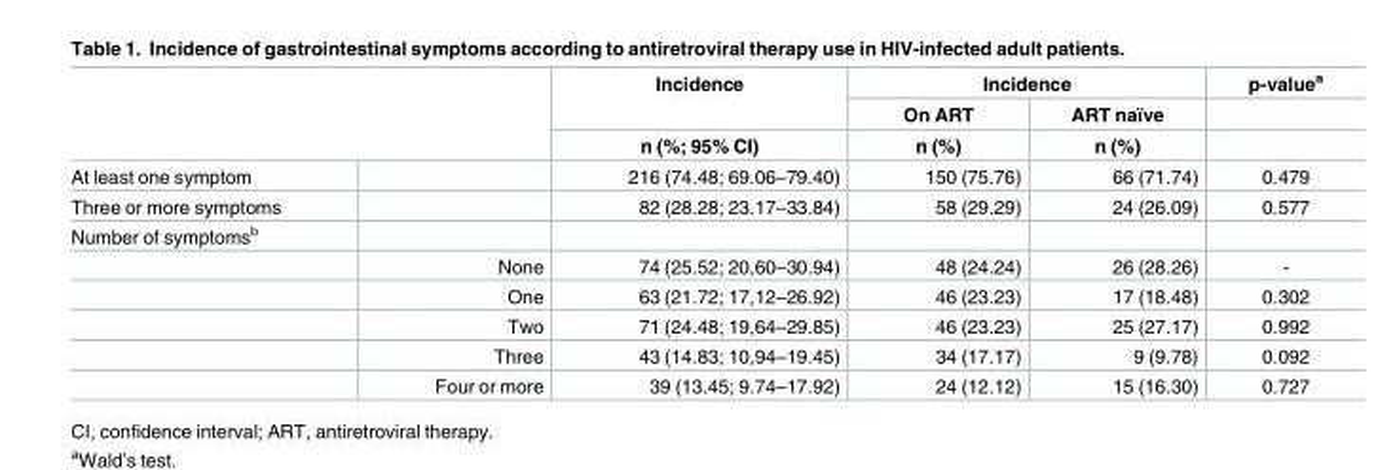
<table><thead><tr><td rowspan="3"></td><td rowspan="3"></td><td rowspan="3">Incidence n (%; 95% CI)</td><td colspan="2">Incidence</td><td rowspan="3">p-value<sup>a</sup></td></tr><tr><td rowspan="2">On ART n (%)</td><td rowspan="2">ART naïve n (%)</td></tr><tr></tr></thead><tbody><tr><td>At least one symptom</td><td></td><td>216 (74.48; 69.06–79.40)</td><td>150 (75.76)</td><td>66 (71.74)</td><td>0.479</td></tr><tr><td>Three or more symptoms</td><td></td><td>82 (28.28; 23.17–33.84)</td><td>58 (29.29)</td><td>24 (26.09)</td><td>0.577</td></tr><tr><td colspan="6">Number of symptoms<sup>b</sup></td></tr><tr><td></td><td>None</td><td>74 (25.52; 20,60–30.94)</td><td>48 (24.24)</td><td>26 (28.26)</td><td>-</td></tr><tr><td></td><td>One</td><td>63 (21.72; 17,12–26.92)</td><td>46 (23.23)</td><td>17 (18.48)</td><td>0.302</td></tr><tr><td></td><td>Two</td><td>71 (24.48; 19,64–29.85)</td><td>46 (23.23)</td><td>25 (27.17)</td><td>0.992</td></tr><tr><td></td><td>Three</td><td>43 (14.83; 10,94–19.45)</td><td>34 (17.17)</td><td>9 (9.78)</td><td>0.092</td></tr><tr><td></td><td>Four or more</td><td>39 (13.45; 9.74–17.92)</td><td>24 (12.12)</td><td>15 (16.30)</td><td>0.727</td></tr></tbody></table>